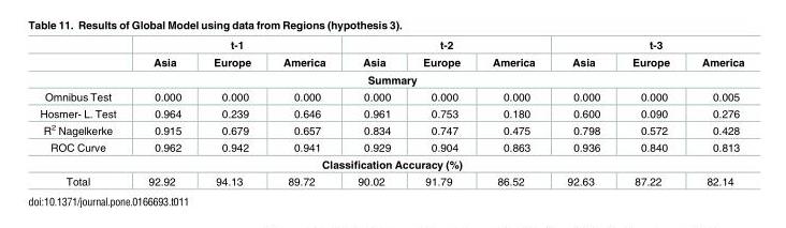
<table><thead><tr><td rowspan="2"></td><td colspan="3">t-1</td><td colspan="3">t-2</td><td colspan="3">t-3</td></tr><tr><td>Asia</td><td>Europe</td><td>America</td><td>Asia</td><td>Europe</td><td>America</td><td>Asia</td><td>Europe</td><td>America</td></tr></thead><tbody><tr><td colspan="10">Summary</td></tr><tr><td>Omnibus Test</td><td>0.000</td><td>0.000</td><td>0.000</td><td>0.000</td><td>0.000</td><td>0.000</td><td>0.000</td><td>0.000</td><td>0.005</td></tr><tr><td>Hosmer- L. Test</td><td>0.964</td><td>0.239</td><td>0.646</td><td>0.961</td><td>0.753</td><td>0.180</td><td>0.600</td><td>0.090</td><td>0.276</td></tr><tr><td>R<sup>2</sup> Nagelkerke</td><td>0.915</td><td>0.679</td><td>0.657</td><td>0.834</td><td>0.747</td><td>0.475</td><td>0.798</td><td>0.572</td><td>0.428</td></tr><tr><td>ROC Curve</td><td>0.962</td><td>0.942</td><td>0.941</td><td>0.929</td><td>0.904</td><td>0.863</td><td>0.936</td><td>0.840</td><td>0.813</td></tr><tr><td colspan="10">Classification Accuracy (%)</td></tr><tr><td>Total</td><td>92.92</td><td>94.13</td><td>89.72</td><td>90.02</td><td>91.79</td><td>86.52</td><td>92.63</td><td>87.22</td><td>82.14</td></tr></tbody></table>